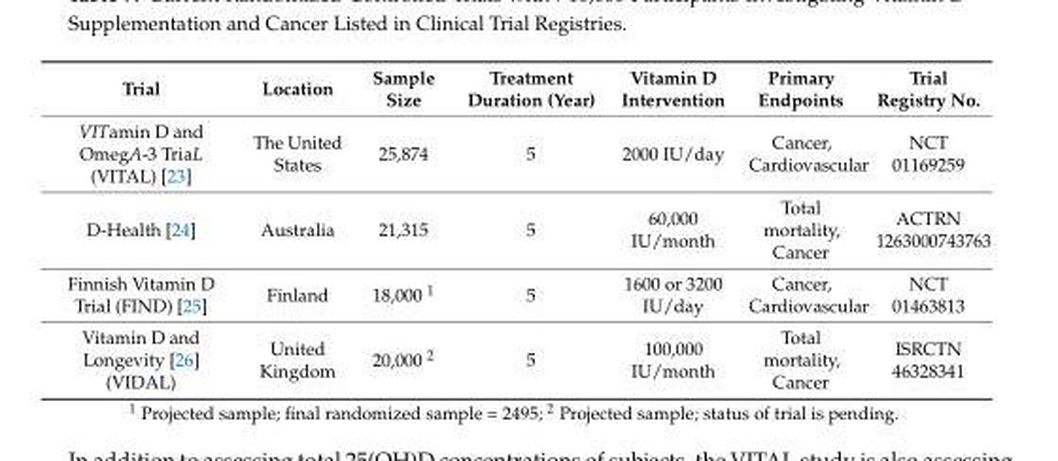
<table><thead><tr><td>Trial</td><td>Location</td><td>Sample Size</td><td>Treatment Duration (Year)</td><td>Vitamin D Intervention</td><td>Primary Endpoints</td><td>Trial Registry No.</td></tr></thead><tbody><tr><td>VITamin D and OmegA-3 TriaL (VITAL) [23]</td><td>The United States</td><td>25,874</td><td>5</td><td>2000 IU/day</td><td>Cancer, Cardiovascular</td><td>NCT 01169259</td></tr><tr><td>D-Health [24]</td><td>Australia</td><td>21,315</td><td>5</td><td>60,000 IU/month</td><td>Total mortality, Cancer</td><td>ACTRN 1263000743763</td></tr><tr><td>Finnish Vitamin D Trial (FIND) [25]</td><td>Finland</td><td>18,000 <sup>1</sup></td><td>5</td><td>1600 or 3200 IU/day</td><td>Cancer, Cardiovascular</td><td>NCT 01463813</td></tr><tr><td>Vitamin D and Longevity [26] (VIDAL)</td><td>United Kingdom</td><td>20,000 <sup>2</sup></td><td>5</td><td>100,000 IU/month</td><td>Total mortality, Cancer</td><td>ISRCTN 46328341</td></tr></tbody></table>